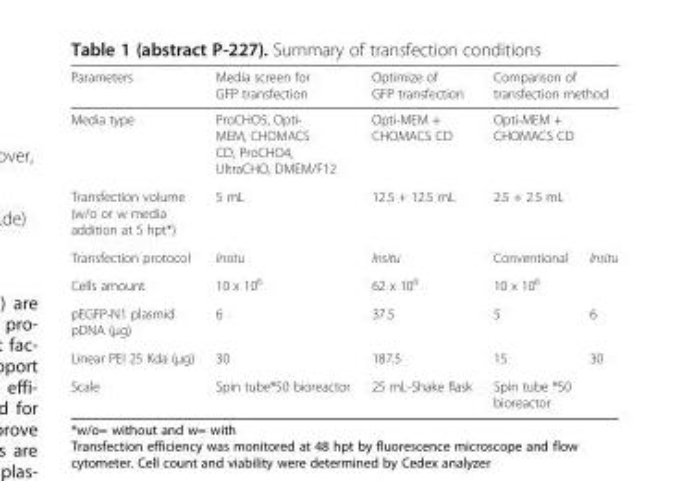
<table><thead><tr><td rowspan="4">Parameters Media type Transfection volume (w/o or w media addition at 5 hpt*) Transfection protocol</td><td rowspan="4">Media screen for GFP transfection ProCHO5, Opti- MEM, CHOMACS CD, ProCHO4, UltraCHO, DMEM/F12 5 mL Insitu</td><td rowspan="4">Optimize of GFP transfection Opti-MEM + CHOMACS CD 12.5 + 12.5 mL Insitu</td><td rowspan="3" colspan="2">Comparison of transfection method Opti-MEM + CHOMACS CD 2.5 + 2.5 mL</td></tr><tr></tr><tr></tr><tr><td>Conventional</td><td>Insitu</td></tr></thead><tbody><tr><td>Cells amount</td><td>10 x 10<sup>6</sup></td><td>62 x 10<sup>6</sup></td><td colspan="2">10 x 10<sup>6</sup></td></tr><tr><td>pEGFP-N1 plasmid pDNA (μg)</td><td>6</td><td>37.5</td><td>5</td><td>6</td></tr><tr><td>Linear PEI 25 Kda (μg)</td><td>30</td><td>187.5</td><td>15</td><td>30</td></tr><tr><td>Scale</td><td>Spin tube®50 bioreactor</td><td>25 mL-Shake flask</td><td colspan="2">Spin tube ®50 bioreactor</td></tr></tbody></table>